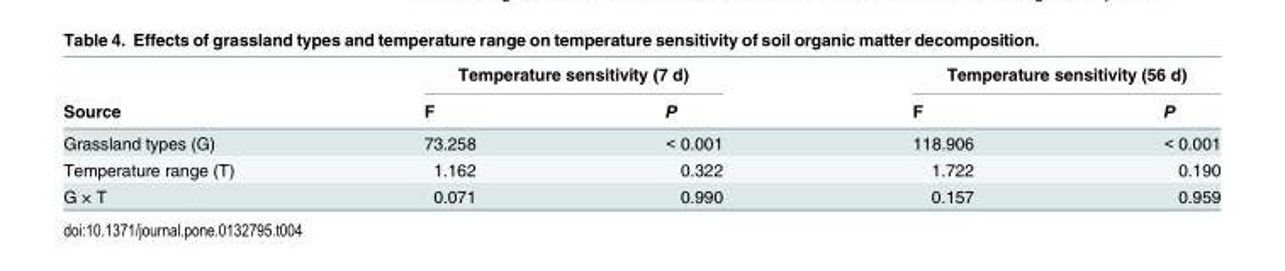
<table><thead><tr><td rowspan="2">Source</td><td colspan="2">Temperature sensitivity (7 d)</td><td colspan="2">Temperature sensitivity (56 d)</td></tr><tr><td>F</td><td>P</td><td>F</td><td>P</td></tr></thead><tbody><tr><td>Grassland types (G)</td><td>73.258</td><td>&lt; 0.001</td><td>118.906</td><td>&lt; 0.001</td></tr><tr><td>Temperature range (T)</td><td>1.162</td><td>0.322</td><td>1.722</td><td>0.190</td></tr><tr><td>G × T</td><td>0.071</td><td>0.990</td><td>0.157</td><td>0.959</td></tr></tbody></table>